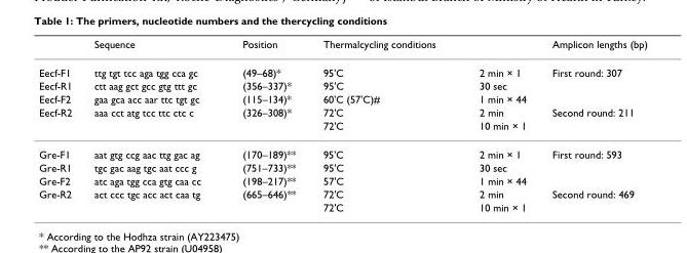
<table><thead><tr><td></td><td>Sequence</td><td>Position</td><td>Thermalcycling conditions</td><td></td><td>Amplicon lengths (bp)</td></tr></thead><tbody><tr><td>Eecf-F1</td><td>ttg tgt tcc aga tgg cca gc</td><td>(49–68)*</td><td>95&#x27;C</td><td>2 min × 1</td><td>First round: 307</td></tr><tr><td>Eecf-R1</td><td>ctt aag gct gcc gtg ttt gc</td><td>(356–337)*</td><td>95&#x27;C</td><td>30 sec</td><td></td></tr><tr><td>Eecf-F2</td><td>gaa gca acc aar ttc tgt gc</td><td>(115–134)*</td><td>60&#x27;C (57&#x27;C)#</td><td>1 min × 44</td><td></td></tr><tr><td rowspan="2">Eecf-R2</td><td>aaa cct atg tcc ttc ctc c</td><td>(326–308)*</td><td>72&#x27;C</td><td>2 min</td><td>Second round: 211</td></tr><tr><td></td><td></td><td>72&#x27;C</td><td>10 min × 1</td><td></td></tr><tr><td>Gre-F1</td><td>aat gtg ccg aac ttg gac ag</td><td>(170–189)**</td><td>95&#x27;C</td><td>2 min × 1</td><td>First round: 593</td></tr><tr><td>Gre-R1</td><td>tgc gac aag tgc aat ccc g</td><td>(751–733)**</td><td>95&#x27;C</td><td>30 sec</td><td></td></tr><tr><td>Gre-F2</td><td>atc aga tgg cca gtg caa cc</td><td>(198–217)**</td><td>57&#x27;C</td><td>1 min × 44</td><td></td></tr><tr><td rowspan="2">Gre-R2</td><td>act ccc tgc acc act caa tg</td><td>(665–646)**</td><td>72&#x27;C</td><td>2 min</td><td>Second round: 469</td></tr><tr><td></td><td></td><td>72&#x27;C</td><td>10 min × 1</td><td></td></tr></tbody></table>